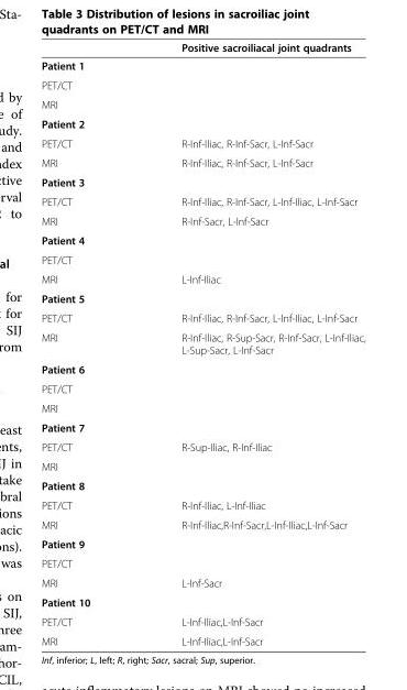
<table><thead><tr><td></td><td>Positive sacroiliacal joint quadrants</td></tr></thead><tbody><tr><td colspan="2">Patient 1</td></tr><tr><td colspan="2">PET/CT</td></tr><tr><td colspan="2">MRI</td></tr><tr><td colspan="2">Patient 2</td></tr><tr><td>PET/CT</td><td>R-Inf-Iliac, R-Inf-Sacr, L-Inf-Sacr</td></tr><tr><td>MRI</td><td>R-Inf-Iliac, R-Inf-Sacr, L-Inf-Sacr</td></tr><tr><td colspan="2">Patient 3</td></tr><tr><td>PET/CT</td><td>R-Inf-Iliac, R-Inf-Sacr, L-Inf-Iliac, L-Inf-Sacr</td></tr><tr><td>MRI</td><td>R-Inf-Sacr, L-Inf-Sacr</td></tr><tr><td colspan="2">Patient 4</td></tr><tr><td colspan="2">PET/CT</td></tr><tr><td>MRI</td><td>L-Inf-Iliac</td></tr><tr><td colspan="2">Patient 5</td></tr><tr><td>PET/CT</td><td>R-Inf-Iliac, R-Inf-Sacr, L-Inf-Iliac, L-Inf-Sacr</td></tr><tr><td>MRI</td><td>R-Inf-Iliac, R-Sup-Sacr, R-Inf-Sacr, L-Inf-Iliac, L-Sup-Sacr, L-Inf-Sacr</td></tr><tr><td colspan="2">Patient 6</td></tr><tr><td colspan="2">PET/CT</td></tr><tr><td colspan="2">MRI</td></tr><tr><td colspan="2">Patient 7</td></tr><tr><td>PET/CT</td><td>R-Sup-Iliac, R-Inf-Iliac</td></tr><tr><td colspan="2">MRI</td></tr><tr><td colspan="2">Patient 8</td></tr><tr><td>PET/CT</td><td>R-Inf-Iliac, L-Inf-Iliac</td></tr><tr><td>MRI</td><td>R-Inf-Iliac,R-Inf-Sacr,L-Inf-Iliac,L-Inf-Sacr</td></tr><tr><td colspan="2">Patient 9</td></tr><tr><td colspan="2">PET/CT</td></tr><tr><td>MRI</td><td>L-Inf-Sacr</td></tr><tr><td colspan="2">Patient 10</td></tr><tr><td>PET/CT</td><td>L-Inf-Iliac,L-Inf-Sacr</td></tr><tr><td>MRI</td><td>L-Inf-Iliac,L-Inf-Sacr</td></tr></tbody></table>